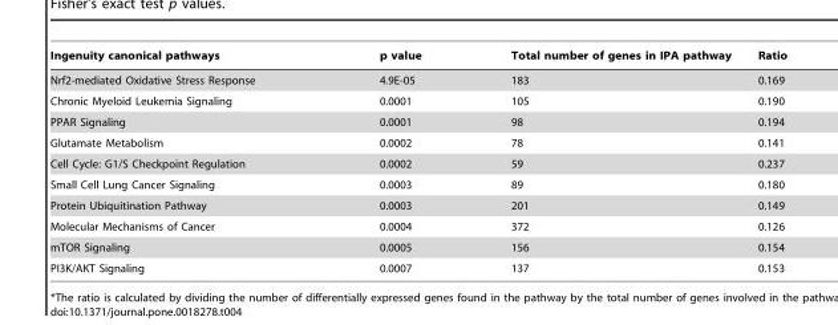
<table><thead><tr><td>Ingenuity canonical pathways</td><td>p value</td><td>Total number of genes in IPA pathway</td><td>Ratio</td></tr></thead><tbody><tr><td>Nrf2-mediated Oxidative Stress Response</td><td>4.9E-05</td><td>183</td><td>0.169</td></tr><tr><td>Chronic Myeloid Leukemia Signaling</td><td>0.0001</td><td>105</td><td>0.190</td></tr><tr><td>PPAR Signaling</td><td>0.0001</td><td>98</td><td>0.194</td></tr><tr><td>Glutamate Metabolism</td><td>0.0002</td><td>78</td><td>0.141</td></tr><tr><td>Cell Cycle: G1/S Checkpoint Regulation</td><td>0.0002</td><td>59</td><td>0.237</td></tr><tr><td>Small Cell Lung Cancer Signaling</td><td>0.0003</td><td>89</td><td>0.180</td></tr><tr><td>Protein Ubiquitination Pathway</td><td>0.0003</td><td>201</td><td>0.149</td></tr><tr><td>Molecular Mechanisms of Cancer</td><td>0.0004</td><td>372</td><td>0.126</td></tr><tr><td>mTOR Signaling</td><td>0.0005</td><td>156</td><td>0.154</td></tr><tr><td>PI3K/AKT Signaling</td><td>0.0007</td><td>137</td><td>0.153</td></tr></tbody></table>